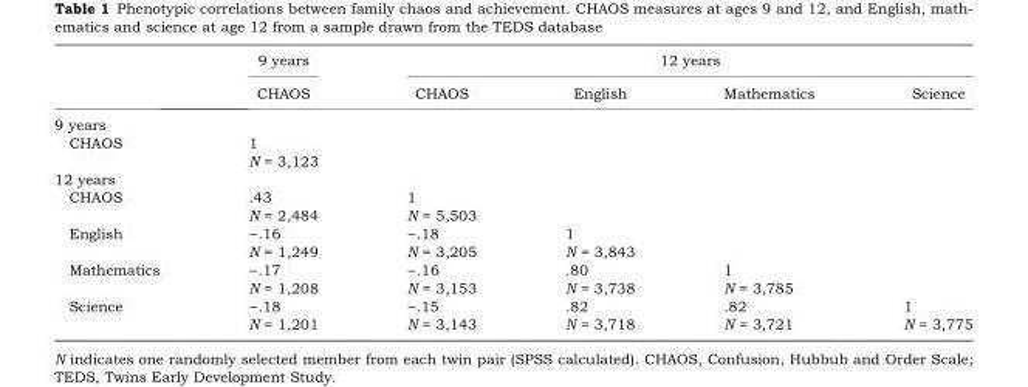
<table><thead><tr><td rowspan="2"></td><td rowspan="2">9 years CHAOS</td><td colspan="4">12 years</td></tr><tr><td>CHAOS</td><td>English</td><td>Mathematics</td><td>Science</td></tr></thead><tbody><tr><td colspan="6">9 years</td></tr><tr><td rowspan="2">CHAOS</td><td>1</td><td></td><td></td><td></td><td></td></tr><tr><td>N = 3,123</td><td></td><td></td><td></td><td></td></tr><tr><td colspan="6">12 years</td></tr><tr><td rowspan="2">CHAOS</td><td>.43</td><td>1</td><td></td><td></td><td></td></tr><tr><td>N = 2,484</td><td>N = 5,503</td><td></td><td></td><td></td></tr><tr><td rowspan="2">English</td><td>−.16</td><td>−.18</td><td>1</td><td></td><td></td></tr><tr><td>N = 1,249</td><td>N = 3,205</td><td>N = 3,843</td><td></td><td></td></tr><tr><td rowspan="2">Mathematics</td><td>−.17</td><td>−.16</td><td>.80</td><td>1</td><td></td></tr><tr><td>N = 1,208</td><td>N = 3,153</td><td>N = 3,738</td><td>N = 3,785</td><td></td></tr><tr><td rowspan="2">Science</td><td>−.18</td><td>−.15</td><td>.82</td><td>.82</td><td>1</td></tr><tr><td>N = 1,201</td><td>N = 3,143</td><td>N = 3,718</td><td>N = 3,721</td><td>N = 3,775</td></tr></tbody></table>